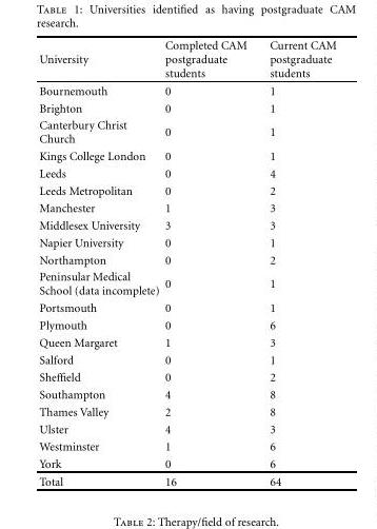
<table><thead><tr><td>University</td><td>Completed CAM postgraduate students</td><td>Current CAM postgraduate students</td></tr></thead><tbody><tr><td>Bournemouth</td><td>0</td><td>1</td></tr><tr><td>Brighton</td><td>0</td><td>1</td></tr><tr><td>Canterbury Christ Church</td><td>0</td><td>1</td></tr><tr><td>Kings College London</td><td>0</td><td>1</td></tr><tr><td>Leeds</td><td>0</td><td>4</td></tr><tr><td>Leeds Metropolitan</td><td>0</td><td>2</td></tr><tr><td>Manchester</td><td>1</td><td>3</td></tr><tr><td>Middlesex University</td><td>3</td><td>3</td></tr><tr><td>Napier University</td><td>0</td><td>1</td></tr><tr><td>Northampton</td><td>0</td><td>2</td></tr><tr><td>Peninsular Medical School (data incomplete)</td><td>0</td><td>1</td></tr><tr><td>Portsmouth</td><td>0</td><td>1</td></tr><tr><td>Plymouth</td><td>0</td><td>6</td></tr><tr><td>Queen Margaret</td><td>1</td><td>3</td></tr><tr><td>Salford</td><td>0</td><td>1</td></tr><tr><td>Sheffield</td><td>0</td><td>2</td></tr><tr><td>Southampton</td><td>4</td><td>8</td></tr><tr><td>Thames Valley</td><td>2</td><td>8</td></tr><tr><td>Ulster</td><td>4</td><td>3</td></tr><tr><td>Westminster</td><td>1</td><td>6</td></tr><tr><td>York</td><td>0</td><td>6</td></tr><tr><td>Total</td><td>16</td><td>64</td></tr></tbody></table>